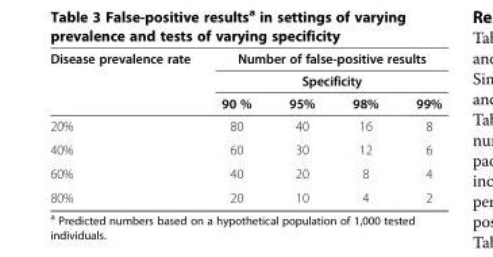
<table><thead><tr><td rowspan="3">Disease prevalence rate</td><td rowspan="2" colspan="4">Number of false-positive results Specificity</td></tr><tr></tr><tr><td>90 %</td><td>95%</td><td>98%</td><td>99%</td></tr></thead><tbody><tr><td>20%</td><td>80</td><td>40</td><td>16</td><td>8</td></tr><tr><td>40%</td><td>60</td><td>30</td><td>12</td><td>6</td></tr><tr><td>60%</td><td>40</td><td>20</td><td>8</td><td>4</td></tr><tr><td>80%</td><td>20</td><td>10</td><td>4</td><td>2</td></tr></tbody></table>